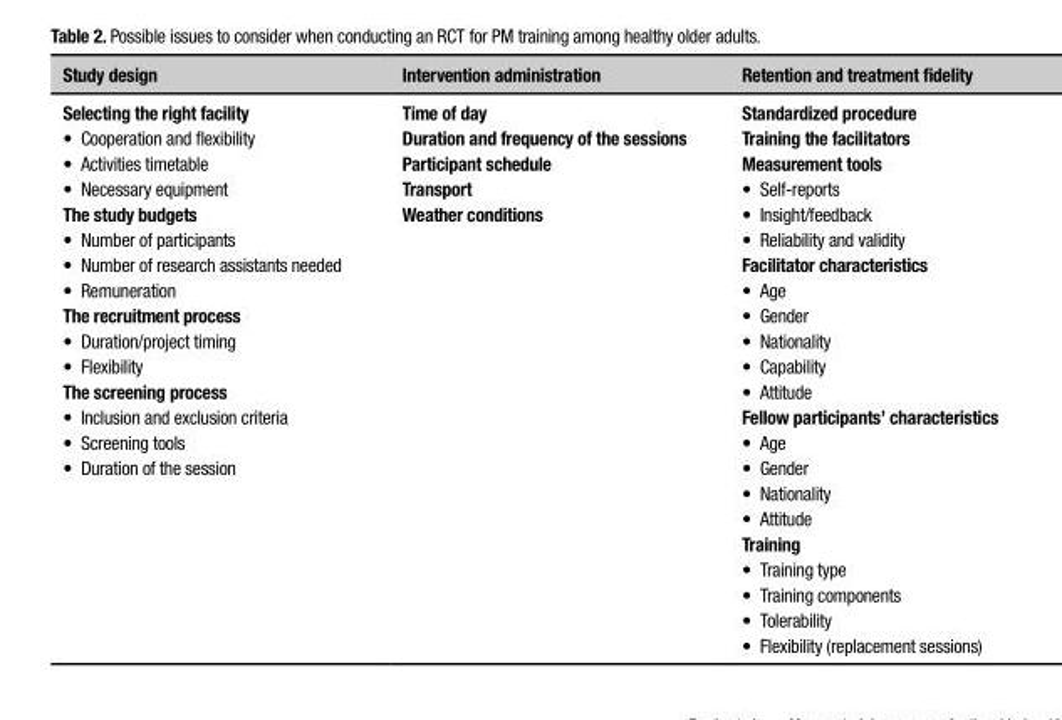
<table><thead><tr><td>Study design</td><td>Intervention administration</td><td>Retention and treatment fidelity</td></tr></thead><tbody><tr><td>Selecting the right facility • Cooperation and flexibility • Activities timetable • Necessary equipment The study budgets • Number of participants • Number of research assistants needed • Remuneration The recruitment process • Duration/project timing • Flexibility The screening process • Inclusion and exclusion criteria • Screening tools • Duration of the session</td><td>Time of day Duration and frequency of the sessions Participant schedule Transport Weather conditions</td><td>Standardized procedure Training the facilitators Measurement tools • Self-reports • Insight/feedback • Reliability and validity Facilitator characteristics • Age • Gender • Nationality • Capability • Attitude Fellow participants’ characteristics • Age • Gender • Nationality • Attitude Training • Training type • Training components • Tolerability • Flexibility (replacement sessions)</td></tr></tbody></table>